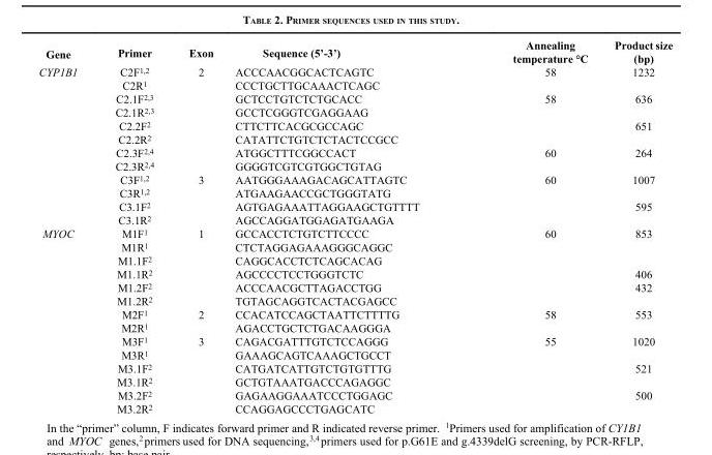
<table><thead><tr><td>Gene</td><td>Primer</td><td>Exon</td><td>Sequence (5’-3’)</td><td>Annealing temperature °C</td><td>Product size (bp)</td></tr></thead><tbody><tr><td rowspan="12">CYP1B1</td><td>C2F<sup>1,2</sup></td><td>2</td><td>ACCCAACGGCACTCAGTC</td><td>58</td><td>1232</td></tr><tr><td>C2R<sup>1</sup></td><td></td><td>CCCTGCTTGCAAACTCAGC</td><td></td><td></td></tr><tr><td>C2.1F<sup>2,3</sup></td><td></td><td>GCTCCTGTCTCTGCACC</td><td>58</td><td>636</td></tr><tr><td>C2.1R<sup>2,3</sup></td><td></td><td>GCCTCGGGTCGAGGAAG</td><td></td><td></td></tr><tr><td>C2.2F<sup>2</sup></td><td></td><td>CTTCTTCACGCGCCAGC</td><td></td><td>651</td></tr><tr><td>C2.2R<sup>2</sup></td><td></td><td>CATATTCTGTCTCTACTCCGCC</td><td></td><td></td></tr><tr><td>C2.3F<sup>2,4</sup></td><td></td><td>ATGGCTTTCGGCCACT</td><td>60</td><td>264</td></tr><tr><td>C2.3R<sup>2,4</sup></td><td></td><td>GGGGTCGTCGTGGCTGTAG</td><td></td><td></td></tr><tr><td>C3F<sup>1,2</sup></td><td>3</td><td>AATGGGAAAGACAGCATTAGTC</td><td>60</td><td>1007</td></tr><tr><td>C3R<sup>1,2</sup></td><td></td><td>ATGAAGAACCGCTGGGTATG</td><td></td><td></td></tr><tr><td>C3.1F<sup>2</sup></td><td></td><td>AGTGAGAAATTAGGAAGCTGTTTT</td><td></td><td>595</td></tr><tr><td>C3.1R<sup>2</sup></td><td></td><td>AGCCAGGATGGAGATGAAGA</td><td></td><td></td></tr><tr><td rowspan="14">MYOC</td><td>M1F<sup>1</sup></td><td>1</td><td>GCCACCTCTGTCTTCCCC</td><td>60</td><td>853</td></tr><tr><td>M1R<sup>1</sup></td><td></td><td>CTCTAGGAGAAAGGGCAGGC</td><td></td><td></td></tr><tr><td>M1.1F<sup>2</sup></td><td></td><td>CAGGCACCTCTCAGCACAG</td><td></td><td></td></tr><tr><td>M1.1R<sup>2</sup></td><td></td><td>AGCCCCTCCTGGGTCTC</td><td></td><td>406</td></tr><tr><td>M1.2F<sup>2</sup></td><td></td><td>ACCCAACGCTTAGACCTGG</td><td></td><td>432</td></tr><tr><td>M1.2R<sup>2</sup></td><td></td><td>TGTAGCAGGTCACTACGAGCC</td><td></td><td></td></tr><tr><td>M2F<sup>1</sup></td><td>2</td><td>CCACATCCAGCTAATTCTTTTG</td><td>58</td><td>553</td></tr><tr><td>M2R<sup>1</sup></td><td></td><td>AGACCTGCTCTGACAAGGGA</td><td></td><td></td></tr><tr><td>M3F<sup>1</sup></td><td>3</td><td>CAGACGATTTGTCTCCAGGG</td><td>55</td><td>1020</td></tr><tr><td>M3R<sup>1</sup></td><td></td><td>GAAAGCAGTCAAAGCTGCCT</td><td></td><td></td></tr><tr><td>M3.1F<sup>2</sup></td><td></td><td>CATGATCATTGTCTGTGTTTG</td><td></td><td>521</td></tr><tr><td>M3.1R<sup>2</sup></td><td></td><td>GCTGTAAATGACCCAGAGGC</td><td></td><td></td></tr><tr><td>M3.2F<sup>2</sup></td><td></td><td>GAGAAGGAAATCCCTGGAGC</td><td></td><td>500</td></tr><tr><td>M3.2R<sup>2</sup></td><td></td><td>CCAGGAGCCCTGAGCATC</td><td></td><td></td></tr></tbody></table>